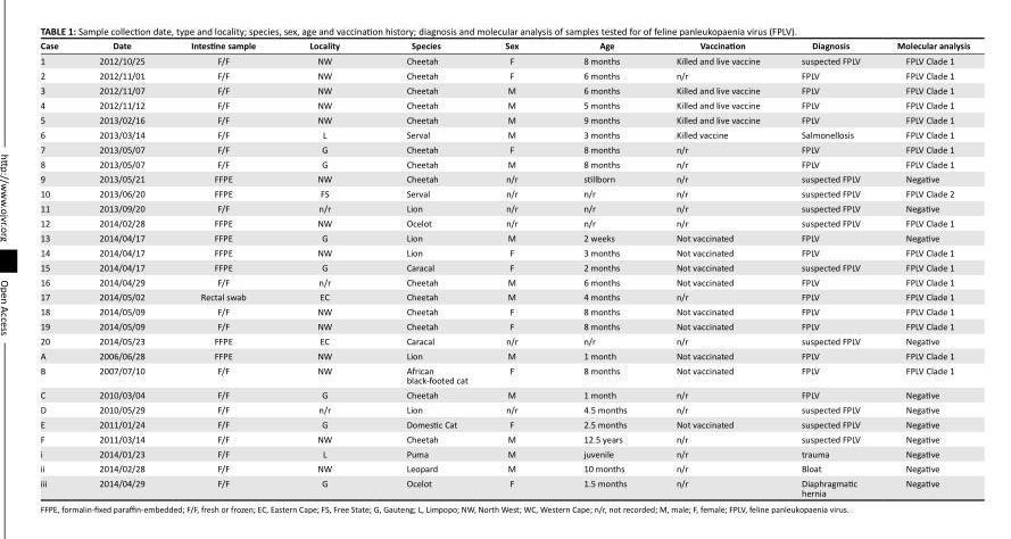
<table><thead><tr><td>Case</td><td>Date</td><td>Intestine sample</td><td>Locality</td><td>Species</td><td>Sex</td><td>Age</td><td>Vaccination</td><td>Diagnosis</td><td>Molecular analysis</td></tr></thead><tbody><tr><td>1</td><td>2012/10/25</td><td>F/F</td><td>NW</td><td>Cheetah</td><td>F</td><td>8 months</td><td>Killed and live vaccine</td><td>suspected FPLV</td><td>FPLV Clade 1</td></tr><tr><td>2</td><td>2012/11/01</td><td>F/F</td><td>NW</td><td>Cheetah</td><td>F</td><td>6 months</td><td>n/r</td><td>FPLV</td><td>FPLV Clade 1</td></tr><tr><td>3</td><td>2012/11/07</td><td>F/F</td><td>NW</td><td>Cheetah</td><td>M</td><td>6 months</td><td>Killed and live vaccine</td><td>FPLV</td><td>FPLV Clade 1</td></tr><tr><td>4</td><td>2012/11/12</td><td>F/F</td><td>NW</td><td>Cheetah</td><td>M</td><td>5 months</td><td>Killed and live vaccine</td><td>FPLV</td><td>FPLV Clade 1</td></tr><tr><td>5</td><td>2013/02/16</td><td>F/F</td><td>NW</td><td>Cheetah</td><td>M</td><td>9 months</td><td>Killed and live vaccine</td><td>FPLV</td><td>FPLV Clade 1</td></tr><tr><td>6</td><td>2013/03/14</td><td>F/F</td><td>L</td><td>Serval</td><td>M</td><td>3 months</td><td>Killed vaccine</td><td>Salmonellosis</td><td>FPLV Clade 1</td></tr><tr><td>7</td><td>2013/05/07</td><td>F/F</td><td>G</td><td>Cheetah</td><td>F</td><td>8 months</td><td>n/r</td><td>FPLV</td><td>FPLV Clade 1</td></tr><tr><td>8</td><td>2013/05/07</td><td>F/F</td><td>G</td><td>Cheetah</td><td>M</td><td>8 months</td><td>n/r</td><td>FPLV</td><td>FPLV Clade 1</td></tr><tr><td>9</td><td>2013/05/21</td><td>FFPE</td><td>NW</td><td>Cheetah</td><td>n/r</td><td>stillborn</td><td>n/r</td><td>suspected FPLV</td><td>Negative</td></tr><tr><td>10</td><td>2013/06/20</td><td>FFPE</td><td>FS</td><td>Serval</td><td>n/r</td><td>n/r</td><td>n/r</td><td>suspected FPLV</td><td>FPLV Clade 2</td></tr><tr><td>11</td><td>2013/09/20</td><td>F/F</td><td>n/r</td><td>Lion</td><td>n/r</td><td>n/r</td><td>n/r</td><td>suspected FPLV</td><td>Negative</td></tr><tr><td>12</td><td>2014/02/28</td><td>FFPE</td><td>NW</td><td>Ocelot</td><td>n/r</td><td>n/r</td><td>n/r</td><td>suspected FPLV</td><td>FPLV Clade 1</td></tr><tr><td>13</td><td>2014/04/17</td><td>FFPE</td><td>G</td><td>Lion</td><td>M</td><td>2 weeks</td><td>Not vaccinated</td><td>FPLV</td><td>Negative</td></tr><tr><td>14</td><td>2014/04/17</td><td>FFPE</td><td>NW</td><td>Lion</td><td>F</td><td>3 months</td><td>Not vaccinated</td><td>FPLV</td><td>FPLV Clade 1</td></tr><tr><td>15</td><td>2014/04/17</td><td>FFPE</td><td>G</td><td>Caracal</td><td>F</td><td>2 months</td><td>Not vaccinated</td><td>suspected FPLV</td><td>FPLV Clade 1</td></tr><tr><td>16</td><td>2014/04/29</td><td>F/F</td><td>n/r</td><td>Cheetah</td><td>M</td><td>6 months</td><td>Not vaccinated</td><td>FPLV</td><td>FPLV Clade 1</td></tr><tr><td>17</td><td>2014/05/02</td><td>Rectal swab</td><td>EC</td><td>Cheetah</td><td>M</td><td>4 months</td><td>n/r</td><td>FPLV</td><td>FPLV Clade 1</td></tr><tr><td>18</td><td>2014/05/09</td><td>F/F</td><td>NW</td><td>Cheetah</td><td>F</td><td>8 months</td><td>Not vaccinated</td><td>FPLV</td><td>FPLV Clade 1</td></tr><tr><td>19</td><td>2014/05/09</td><td>F/F</td><td>NW</td><td>Cheetah</td><td>F</td><td>8 months</td><td>Not vaccinated</td><td>FPLV</td><td>FPLV Clade 1</td></tr><tr><td>20</td><td>2014/05/23</td><td>FFPE</td><td>EC</td><td>Caracal</td><td>n/r</td><td>n/r</td><td>n/r</td><td>suspected FPLV</td><td>Negative</td></tr><tr><td>A</td><td>2006/06/28</td><td>FFPE</td><td>NW</td><td>Lion</td><td>M</td><td>1 month</td><td>Not vaccinated</td><td>FPLV</td><td>FPLV Clade 1</td></tr><tr><td>B</td><td>2007/07/10</td><td>F/F</td><td>NW</td><td>African black-footed cat</td><td>F</td><td>8 months</td><td>Not vaccinated</td><td>FPLV</td><td>FPLV Clade 1</td></tr><tr><td>C</td><td>2010/03/04</td><td>F/F</td><td>G</td><td>Cheetah</td><td>M</td><td>1 month</td><td>n/r</td><td>FPLV</td><td>Negative</td></tr><tr><td>D</td><td>2010/05/29</td><td>F/F</td><td>n/r</td><td>Lion</td><td>n/r</td><td>4.5 months</td><td>n/r</td><td>suspected FPLV</td><td>Negative</td></tr><tr><td>E</td><td>2011/01/24</td><td>F/F</td><td>G</td><td>Domestic Cat</td><td>F</td><td>2.5 months</td><td>Not vaccinated</td><td>suspected FPLV</td><td>Negative</td></tr><tr><td>F</td><td>2011/03/14</td><td>F/F</td><td>NW</td><td>Cheetah</td><td>M</td><td>12.5 years</td><td>n/r</td><td>suspected FPLV</td><td>Negative</td></tr><tr><td>i</td><td>2014/01/23</td><td>F/F</td><td>L</td><td>Puma</td><td>M</td><td>juvenile</td><td>n/r</td><td>trauma</td><td>Negative</td></tr><tr><td>ii</td><td>2014/02/28</td><td>F/F</td><td>NW</td><td>Leopard</td><td>M</td><td>10 months</td><td>n/r</td><td>Bloat</td><td>Negative</td></tr><tr><td>iii</td><td>2014/04/29</td><td>F/F</td><td>G</td><td>Ocelot</td><td>F</td><td>1.5 months</td><td>n/r</td><td>Diaphragmatic hernia</td><td>Negative</td></tr></tbody></table>